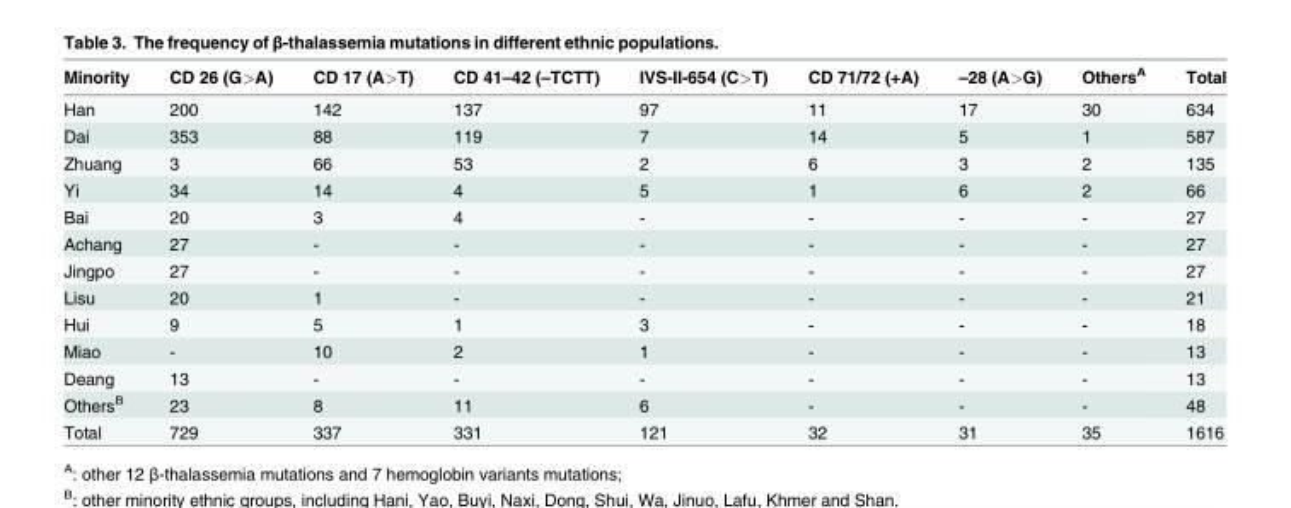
<table><thead><tr><td>Minority</td><td>CD 26 (G&gt;A)</td><td>CD 17 (A&gt;T)</td><td>CD 41–42 (–TCTT)</td><td>IVS-II-654 (C&gt;T)</td><td>CD 71/72 (+A)</td><td>–28 (A&gt;G)</td><td>Others<sup>A</sup></td><td>Total</td></tr></thead><tbody><tr><td>Han</td><td>200</td><td>142</td><td>137</td><td>97</td><td>11</td><td>17</td><td>30</td><td>634</td></tr><tr><td>Dai</td><td>353</td><td>88</td><td>119</td><td>7</td><td>14</td><td>5</td><td>1</td><td>587</td></tr><tr><td>Zhuang</td><td>3</td><td>66</td><td>53</td><td>2</td><td>6</td><td>3</td><td>2</td><td>135</td></tr><tr><td>Yi</td><td>34</td><td>14</td><td>4</td><td>5</td><td>1</td><td>6</td><td>2</td><td>66</td></tr><tr><td>Bai</td><td>20</td><td>3</td><td>4</td><td>-</td><td>-</td><td>-</td><td>-</td><td>27</td></tr><tr><td>Achang</td><td>27</td><td>-</td><td>-</td><td>-</td><td>-</td><td>-</td><td>-</td><td>27</td></tr><tr><td>Jingpo</td><td>27</td><td>-</td><td>-</td><td>-</td><td>-</td><td>-</td><td>-</td><td>27</td></tr><tr><td>Lisu</td><td>20</td><td>1</td><td>-</td><td>-</td><td>-</td><td>-</td><td>-</td><td>21</td></tr><tr><td>Hui</td><td>9</td><td>5</td><td>1</td><td>3</td><td>-</td><td>-</td><td>-</td><td>18</td></tr><tr><td>Miao</td><td>-</td><td>10</td><td>2</td><td>1</td><td>-</td><td>-</td><td>-</td><td>13</td></tr><tr><td>Deang</td><td>13</td><td>-</td><td>-</td><td>-</td><td>-</td><td>-</td><td>-</td><td>13</td></tr><tr><td>Others<sup>B</sup></td><td>23</td><td>8</td><td>11</td><td>6</td><td>-</td><td>-</td><td>-</td><td>48</td></tr><tr><td>Total</td><td>729</td><td>337</td><td>331</td><td>121</td><td>32</td><td>31</td><td>35</td><td>1616</td></tr></tbody></table>